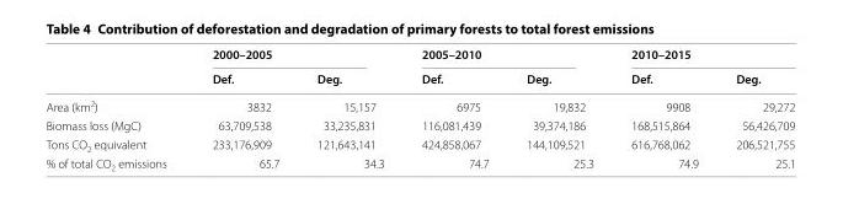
<table><thead><tr><td rowspan="2"></td><td colspan="2">2000–2005</td><td colspan="2">2005–2010</td><td colspan="2">2010–2015</td></tr><tr><td>Def.</td><td>Deg.</td><td>Def.</td><td>Deg.</td><td>Def.</td><td>Deg.</td></tr></thead><tbody><tr><td>Area (km<sup>2</sup>)</td><td>3832</td><td>15,157</td><td>6975</td><td>19,832</td><td>9908</td><td>29,272</td></tr><tr><td>Biomass loss (MgC)</td><td>63,709,538</td><td>33,235,831</td><td>116,081,439</td><td>39,374,186</td><td>168,515,864</td><td>56,426,709</td></tr><tr><td>Tons CO<sub>2</sub> equivalent</td><td>233,176,909</td><td>121,643,141</td><td>424,858,067</td><td>144,109,521</td><td>616,768,062</td><td>206,521,755</td></tr><tr><td>% of total CO<sub>2</sub> emissions</td><td>65.7</td><td>34.3</td><td>74.7</td><td>25.3</td><td>74.9</td><td>25.1</td></tr></tbody></table>